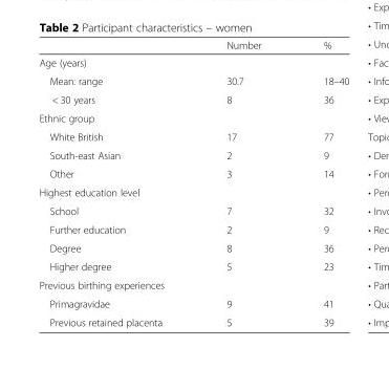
<table><thead><tr><td></td><td>Number</td><td>%</td></tr></thead><tbody><tr><td colspan="3">Age (years)</td></tr><tr><td>Mean: range</td><td>30.7</td><td>18–40</td></tr><tr><td>&lt; 30 years</td><td>8</td><td>36</td></tr><tr><td colspan="3">Ethnic group</td></tr><tr><td>White British</td><td>17</td><td>77</td></tr><tr><td>South-east Asian</td><td>2</td><td>9</td></tr><tr><td>Other</td><td>3</td><td>14</td></tr><tr><td colspan="3">Highest education level</td></tr><tr><td>School</td><td>7</td><td>32</td></tr><tr><td>Further education</td><td>2</td><td>9</td></tr><tr><td>Degree</td><td>8</td><td>36</td></tr><tr><td>Higher degree</td><td>5</td><td>23</td></tr><tr><td colspan="3">Previous birthing experiences</td></tr><tr><td>Primagravidae</td><td>9</td><td>41</td></tr><tr><td>Previous retained placenta</td><td>5</td><td>39</td></tr></tbody></table>